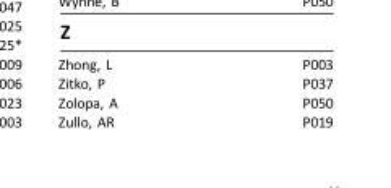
<table><tbody><tr><td>Zhong, L</td><td>P003</td></tr><tr><td>Zitko, P</td><td>P037</td></tr><tr><td>Zolopa, A</td><td>P050</td></tr><tr><td>Zullo, AR</td><td>P019</td></tr></tbody></table>